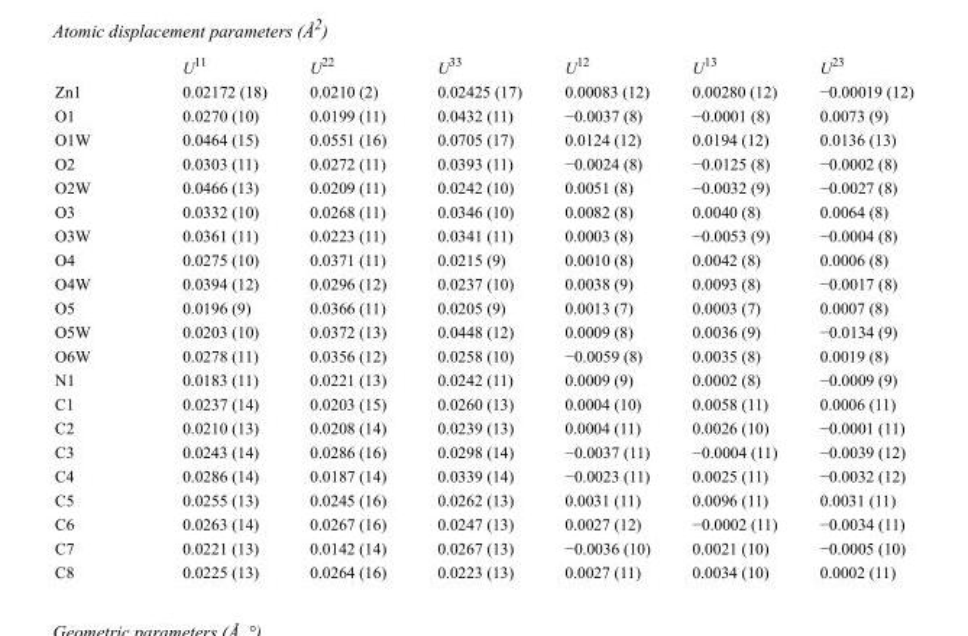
<table><thead><tr><td></td><td>U<sup>11</sup></td><td>U<sup>22</sup></td><td>U<sup>33</sup></td><td>U<sup>12</sup></td><td>U<sup>13</sup></td><td>U<sup>23</sup></td></tr></thead><tbody><tr><td>Zn1</td><td>0.02172 (18)</td><td>0.0210 (2)</td><td>0.02425 (17)</td><td>0.00083 (12)</td><td>0.00280 (12)</td><td>−0.00019 (12)</td></tr><tr><td>O1</td><td>0.0270 (10)</td><td>0.0199 (11)</td><td>0.0432 (11)</td><td>−0.0037 (8)</td><td>−0.0001 (8)</td><td>0.0073 (9)</td></tr><tr><td>O1W</td><td>0.0464 (15)</td><td>0.0551 (16)</td><td>0.0705 (17)</td><td>0.0124 (12)</td><td>0.0194 (12)</td><td>0.0136 (13)</td></tr><tr><td>O2</td><td>0.0303 (11)</td><td>0.0272 (11)</td><td>0.0393 (11)</td><td>−0.0024 (8)</td><td>−0.0125 (8)</td><td>−0.0002 (8)</td></tr><tr><td>O2W</td><td>0.0466 (13)</td><td>0.0209 (11)</td><td>0.0242 (10)</td><td>0.0051 (8)</td><td>−0.0032 (9)</td><td>−0.0027 (8)</td></tr><tr><td>O3</td><td>0.0332 (10)</td><td>0.0268 (11)</td><td>0.0346 (10)</td><td>0.0082 (8)</td><td>0.0040 (8)</td><td>0.0064 (8)</td></tr><tr><td>O3W</td><td>0.0361 (11)</td><td>0.0223 (11)</td><td>0.0341 (11)</td><td>0.0003 (8)</td><td>−0.0053 (9)</td><td>−0.0004 (8)</td></tr><tr><td>O4</td><td>0.0275 (10)</td><td>0.0371 (11)</td><td>0.0215 (9)</td><td>0.0010 (8)</td><td>0.0042 (8)</td><td>0.0006 (8)</td></tr><tr><td>O4W</td><td>0.0394 (12)</td><td>0.0296 (12)</td><td>0.0237 (10)</td><td>0.0038 (9)</td><td>0.0093 (8)</td><td>−0.0017 (8)</td></tr><tr><td>O5</td><td>0.0196 (9)</td><td>0.0366 (11)</td><td>0.0205 (9)</td><td>0.0013 (7)</td><td>0.0003 (7)</td><td>0.0007 (8)</td></tr><tr><td>O5W</td><td>0.0203 (10)</td><td>0.0372 (13)</td><td>0.0448 (12)</td><td>0.0009 (8)</td><td>0.0036 (9)</td><td>−0.0134 (9)</td></tr><tr><td>O6W</td><td>0.0278 (11)</td><td>0.0356 (12)</td><td>0.0258 (10)</td><td>−0.0059 (8)</td><td>0.0035 (8)</td><td>0.0019 (8)</td></tr><tr><td>N1</td><td>0.0183 (11)</td><td>0.0221 (13)</td><td>0.0242 (11)</td><td>0.0009 (9)</td><td>0.0002 (8)</td><td>−0.0009 (9)</td></tr><tr><td>C1</td><td>0.0237 (14)</td><td>0.0203 (15)</td><td>0.0260 (13)</td><td>0.0004 (10)</td><td>0.0058 (11)</td><td>0.0006 (11)</td></tr><tr><td>C2</td><td>0.0210 (13)</td><td>0.0208 (14)</td><td>0.0239 (13)</td><td>0.0004 (11)</td><td>0.0026 (10)</td><td>−0.0001 (11)</td></tr><tr><td>C3</td><td>0.0243 (14)</td><td>0.0286 (16)</td><td>0.0298 (14)</td><td>−0.0037 (11)</td><td>−0.0004 (11)</td><td>−0.0039 (12)</td></tr><tr><td>C4</td><td>0.0286 (14)</td><td>0.0187 (14)</td><td>0.0339 (14)</td><td>−0.0023 (11)</td><td>0.0025 (11)</td><td>−0.0032 (12)</td></tr><tr><td>C5</td><td>0.0255 (13)</td><td>0.0245 (16)</td><td>0.0262 (13)</td><td>0.0031 (11)</td><td>0.0096 (11)</td><td>0.0031 (11)</td></tr><tr><td>C6</td><td>0.0263 (14)</td><td>0.0267 (16)</td><td>0.0247 (13)</td><td>0.0027 (12)</td><td>−0.0002 (11)</td><td>−0.0034 (11)</td></tr><tr><td>C7</td><td>0.0221 (13)</td><td>0.0142 (14)</td><td>0.0267 (13)</td><td>−0.0036 (10)</td><td>0.0021 (10)</td><td>−0.0005 (10)</td></tr><tr><td>C8</td><td>0.0225 (13)</td><td>0.0264 (16)</td><td>0.0223 (13)</td><td>0.0027 (11)</td><td>0.0034 (10)</td><td>0.0002 (11)</td></tr></tbody></table>